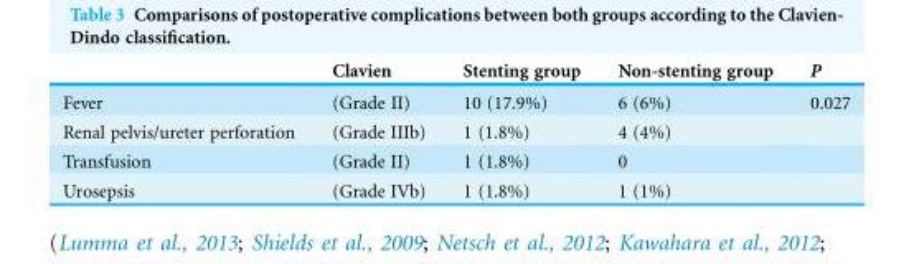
<table><thead><tr><td></td><td>Clavien</td><td>Stenting group</td><td>Non-stenting group</td><td>P</td></tr></thead><tbody><tr><td>Fever</td><td>(Grade II)</td><td>10 (17.9%)</td><td>6 (6%)</td><td>0.027</td></tr><tr><td>Renal pelvis/ureter perforation</td><td>(Grade IIIb)</td><td>1 (1.8%)</td><td>4 (4%)</td><td></td></tr><tr><td>Transfusion</td><td>(Grade II)</td><td>1 (1.8%)</td><td>0</td><td></td></tr><tr><td>Urosepsis</td><td>(Grade IVb)</td><td>1 (1.8%)</td><td>1 (1%)</td><td></td></tr></tbody></table>